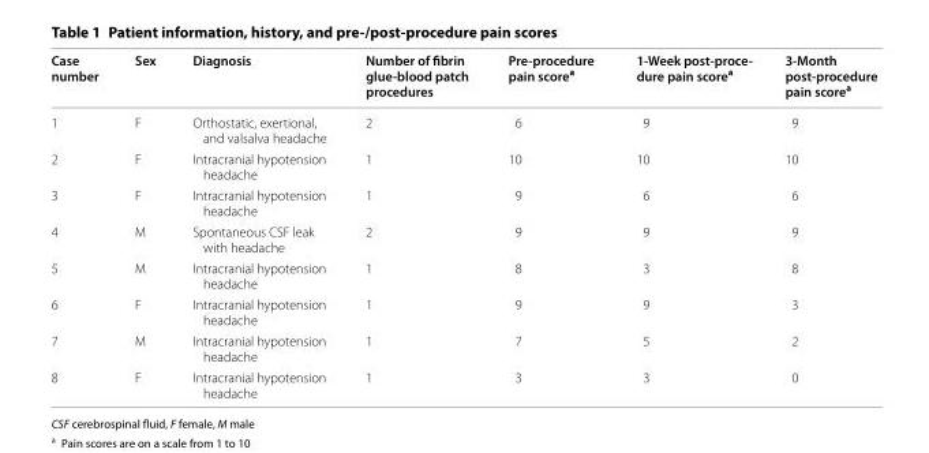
<table><thead><tr><td>Case number</td><td>Sex</td><td>Diagnosis</td><td>Number of fibrin glue-blood patch procedures</td><td>Pre-procedure pain score<sup>a</sup></td><td>1-Week post-proce- dure pain scorea</td><td>3-Month post-procedure pain score<sup>a</sup></td></tr></thead><tbody><tr><td>1</td><td>F</td><td>Orthostatic, exertional, and valsalva headache</td><td>2</td><td>6</td><td>9</td><td>9</td></tr><tr><td>2</td><td>F</td><td>Intracranial hypotension headache</td><td>1</td><td>10</td><td>10</td><td>10</td></tr><tr><td>3</td><td>F</td><td>Intracranial hypotension headache</td><td>1</td><td>9</td><td>6</td><td>6</td></tr><tr><td>4</td><td>M</td><td>Spontaneous CSF leak with headache</td><td>2</td><td>9</td><td>9</td><td>9</td></tr><tr><td>5</td><td>M</td><td>Intracranial hypotension headache</td><td>1</td><td>8</td><td>3</td><td>8</td></tr><tr><td>6</td><td>F</td><td>Intracranial hypotension headache</td><td>1</td><td>9</td><td>9</td><td>3</td></tr><tr><td>7</td><td>M</td><td>Intracranial hypotension headache</td><td>1</td><td>7</td><td>5</td><td>2</td></tr><tr><td>8</td><td>F</td><td>Intracranial hypotension headache</td><td>1</td><td>3</td><td>3</td><td>0</td></tr></tbody></table>